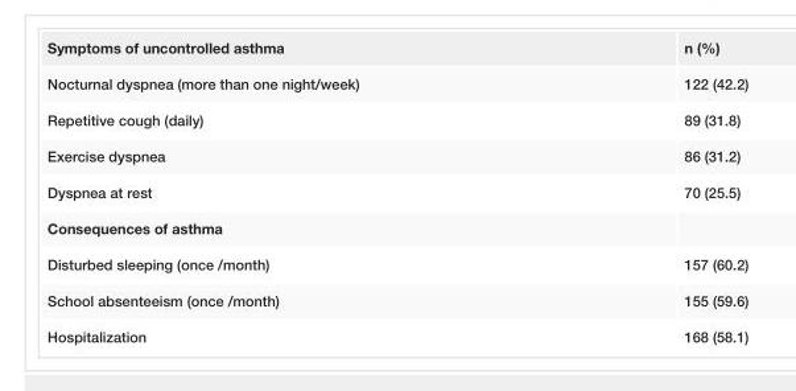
<table><tbody><tr><td>Symptoms of uncontrolled asthma</td><td>n (%)</td></tr><tr><td>Nocturnal dyspnea (more than one night/week)</td><td>122 (42.2)</td></tr><tr><td>Repetitive cough (daily)</td><td>89 (31.8)</td></tr><tr><td>Exercise dyspnea</td><td>86 (31.2)</td></tr><tr><td>Dyspnea at rest</td><td>70 (25.5)</td></tr><tr><td colspan="2">Consequences of asthma</td></tr><tr><td>Disturbed sleeping (once /month)</td><td>157 (60.2)</td></tr><tr><td>School absenteeism (once /month)</td><td>155 (59.6)</td></tr><tr><td>Hospitalization</td><td>168 (58.1)</td></tr></tbody></table>